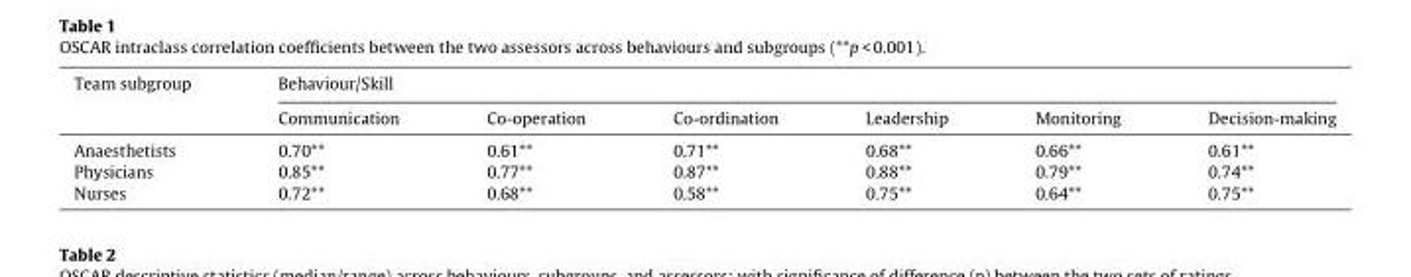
<table><thead><tr><td rowspan="2">Team subgroup</td><td colspan="6">Behaviour/Skill</td></tr><tr><td>Communication</td><td>Co-operation</td><td>Co-ordination</td><td>Leadership</td><td>Monitoring</td><td>Decision-making</td></tr></thead><tbody><tr><td>Anaesthetists</td><td>0.70**</td><td>0.61**</td><td>0.71**</td><td>0.68**</td><td>0.66**</td><td>0.61**</td></tr><tr><td>Physicians</td><td>0.85**</td><td>0.77**</td><td>0.87**</td><td>0.88**</td><td>0.79**</td><td>0.74**</td></tr><tr><td>Nurses</td><td>0.72**</td><td>0.68**</td><td>0.58**</td><td>0.75**</td><td>0.64**</td><td>0.75**</td></tr></tbody></table>